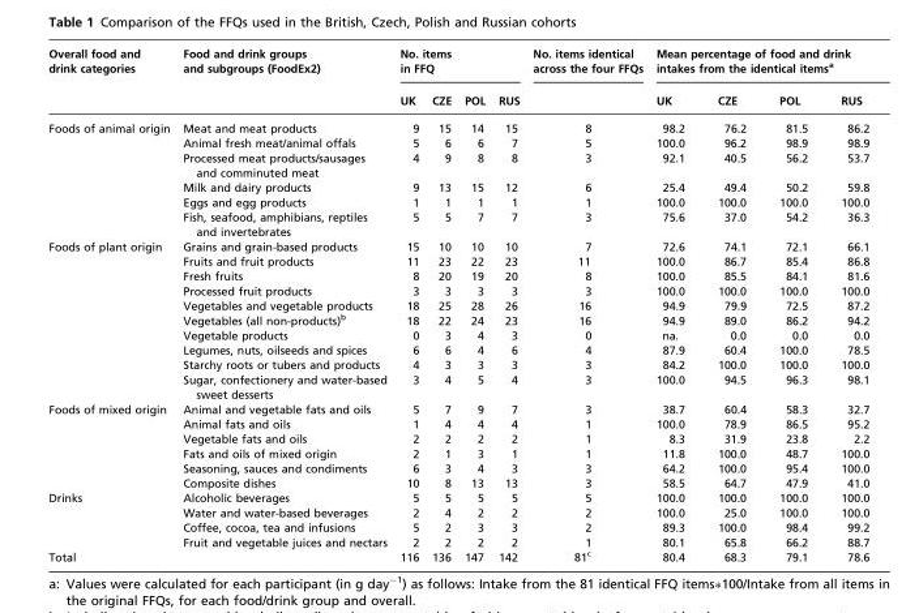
<table><thead><tr><td rowspan="2">Overall food and drink categories</td><td rowspan="2">Food and drink groups and subgroups (FoodEx2)</td><td colspan="4">No. items in FFQ</td><td rowspan="2">No. items identical across the four FFQs</td><td colspan="4">Mean percentage of food and drink intakes from the identical items<sup>a</sup></td></tr><tr><td>UK</td><td>CZE</td><td>POL</td><td>RUS</td><td>UK</td><td>CZE</td><td>POL</td><td>RUS</td></tr></thead><tbody><tr><td rowspan="6">Foods of animal origin</td><td>Meat and meat products</td><td>9</td><td>15</td><td>14</td><td>15</td><td>8</td><td>98.2</td><td>76.2</td><td>81.5</td><td>86.2</td></tr><tr><td>Animal fresh meat/animal offals</td><td>5</td><td>6</td><td>6</td><td>7</td><td>5</td><td>100.0</td><td>96.2</td><td>98.9</td><td>98.9</td></tr><tr><td>Processed meat products/sausages and comminuted meat</td><td>4</td><td>9</td><td>8</td><td>8</td><td>3</td><td>92.1</td><td>40.5</td><td>56.2</td><td>53.7</td></tr><tr><td>Milk and dairy products</td><td>9</td><td>13</td><td>15</td><td>12</td><td>6</td><td>25.4</td><td>49.4</td><td>50.2</td><td>59.8</td></tr><tr><td>Eggs and egg products</td><td>1</td><td>1</td><td>1</td><td>1</td><td>1</td><td>100.0</td><td>100.0</td><td>100.0</td><td>100.0</td></tr><tr><td>Fish, seafood, amphibians, reptiles and invertebrates</td><td>5</td><td>5</td><td>7</td><td>7</td><td>3</td><td>75.6</td><td>37.0</td><td>54.2</td><td>36.3</td></tr><tr><td rowspan="10">Foods of plant origin</td><td>Grains and grain-based products</td><td>15</td><td>10</td><td>10</td><td>10</td><td>7</td><td>72.6</td><td>74.1</td><td>72.1</td><td>66.1</td></tr><tr><td>Fruits and fruit products</td><td>11</td><td>23</td><td>22</td><td>23</td><td>11</td><td>100.0</td><td>86.7</td><td>85.4</td><td>86.8</td></tr><tr><td>Fresh fruits</td><td>8</td><td>20</td><td>19</td><td>20</td><td>8</td><td>100.0</td><td>85.5</td><td>84.1</td><td>81.6</td></tr><tr><td>Processed fruit products</td><td>3</td><td>3</td><td>3</td><td>3</td><td>3</td><td>100.0</td><td>100.0</td><td>100.0</td><td>100.0</td></tr><tr><td>Vegetables and vegetable products</td><td>18</td><td>25</td><td>28</td><td>26</td><td>16</td><td>94.9</td><td>79.9</td><td>72.5</td><td>87.2</td></tr><tr><td>Vegetables (all non-products)<sup>b</sup></td><td>18</td><td>22</td><td>24</td><td>23</td><td>16</td><td>94.9</td><td>89.0</td><td>86.2</td><td>94.2</td></tr><tr><td>Vegetable products</td><td>0</td><td>3</td><td>4</td><td>3</td><td>0</td><td>na.</td><td>0.0</td><td>0.0</td><td>0.0</td></tr><tr><td>Legumes, nuts, oilseeds and spices</td><td>6</td><td>6</td><td>4</td><td>6</td><td>4</td><td>87.9</td><td>60.4</td><td>100.0</td><td>78.5</td></tr><tr><td>Starchy roots or tubers and products</td><td>4</td><td>3</td><td>3</td><td>3</td><td>3</td><td>84.2</td><td>100.0</td><td>100.0</td><td>100.0</td></tr><tr><td>Sugar, confectionery and water-based sweet desserts</td><td>3</td><td>4</td><td>5</td><td>4</td><td>3</td><td>100.0</td><td>94.5</td><td>96.3</td><td>98.1</td></tr><tr><td rowspan="6">Foods of mixed origin</td><td>Animal and vegetable fats and oils</td><td>5</td><td>7</td><td>9</td><td>7</td><td>3</td><td>38.7</td><td>60.4</td><td>58.3</td><td>32.7</td></tr><tr><td>Animal fats and oils</td><td>1</td><td>4</td><td>4</td><td>4</td><td>1</td><td>100.0</td><td>78.9</td><td>86.5</td><td>95.2</td></tr><tr><td>Vegetable fats and oils</td><td>2</td><td>2</td><td>2</td><td>2</td><td>1</td><td>8.3</td><td>31.9</td><td>23.8</td><td>2.2</td></tr><tr><td>Fats and oils of mixed origin</td><td>2</td><td>1</td><td>3</td><td>1</td><td>1</td><td>11.8</td><td>100.0</td><td>48.7</td><td>100.0</td></tr><tr><td>Seasoning, sauces and condiments</td><td>6</td><td>3</td><td>4</td><td>3</td><td>3</td><td>64.2</td><td>100.0</td><td>95.4</td><td>100.0</td></tr><tr><td>Composite dishes</td><td>10</td><td>8</td><td>13</td><td>13</td><td>3</td><td>58.5</td><td>64.7</td><td>47.9</td><td>41.0</td></tr><tr><td rowspan="4">Drinks</td><td>Alcoholic beverages</td><td>5</td><td>5</td><td>5</td><td>5</td><td>5</td><td>100.0</td><td>100.0</td><td>100.0</td><td>100.0</td></tr><tr><td>Water and water-based beverages</td><td>2</td><td>4</td><td>2</td><td>2</td><td>2</td><td>100.0</td><td>25.0</td><td>100.0</td><td>100.0</td></tr><tr><td>Coffee, cocoa, tea and infusions</td><td>5</td><td>2</td><td>3</td><td>3</td><td>2</td><td>89.3</td><td>100.0</td><td>98.4</td><td>99.2</td></tr><tr><td>Fruit and vegetable juices and nectars</td><td>2</td><td>2</td><td>2</td><td>2</td><td>1</td><td>80.1</td><td>65.8</td><td>66.2</td><td>88.7</td></tr><tr><td colspan="2">Total</td><td>116</td><td>136</td><td>147</td><td>142</td><td>81<sup>c</sup></td><td>80.4</td><td>68.3</td><td>79.1</td><td>78.6</td></tr></tbody></table>